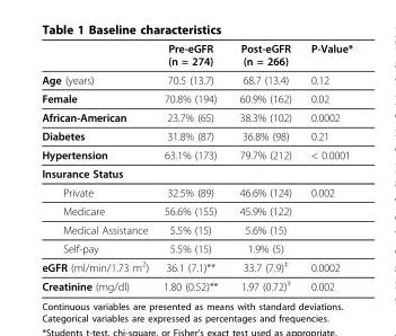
<table><thead><tr><td></td><td>Pre-eGFR (n = 274)</td><td>Post-eGFR (n = 266)</td><td>P-Value*</td></tr></thead><tbody><tr><td>Age (years)</td><td>70.5 (13.7)</td><td>68.7 (13.4)</td><td>0.12</td></tr><tr><td>Female</td><td>70.8% (194)</td><td>60.9% (162)</td><td>0.02</td></tr><tr><td>African-American</td><td>23.7% (65)</td><td>38.3% (102)</td><td>0.0002</td></tr><tr><td>Diabetes</td><td>31.8% (87)</td><td>36.8% (98)</td><td>0.21</td></tr><tr><td>Hypertension</td><td>63.1% (173)</td><td>79.7% (212)</td><td>&lt; 0.0001</td></tr><tr><td colspan="4">Insurance Status</td></tr><tr><td>Private</td><td>32.5% (89)</td><td>46.6% (124)</td><td>0.002</td></tr><tr><td>Medicare</td><td>56.6% (155)</td><td>45.9% (122)</td><td></td></tr><tr><td>Medical Assistance</td><td>5.5% (15)</td><td>5.6% (15)</td><td></td></tr><tr><td>Self-pay</td><td>5.5% (15)</td><td>1.9% (5)</td><td></td></tr><tr><td>eGFR (ml/min/1.73 m<sup>2</sup>)</td><td>36.1 (7.1)**</td><td>33.7 (7.9)<sup>‡</sup></td><td>0.0002</td></tr><tr><td>Creatinine (mg/dl)</td><td>1.80 (0.52)**</td><td>1.97 (0.72)<sup>‡</sup></td><td>0.002</td></tr></tbody></table>